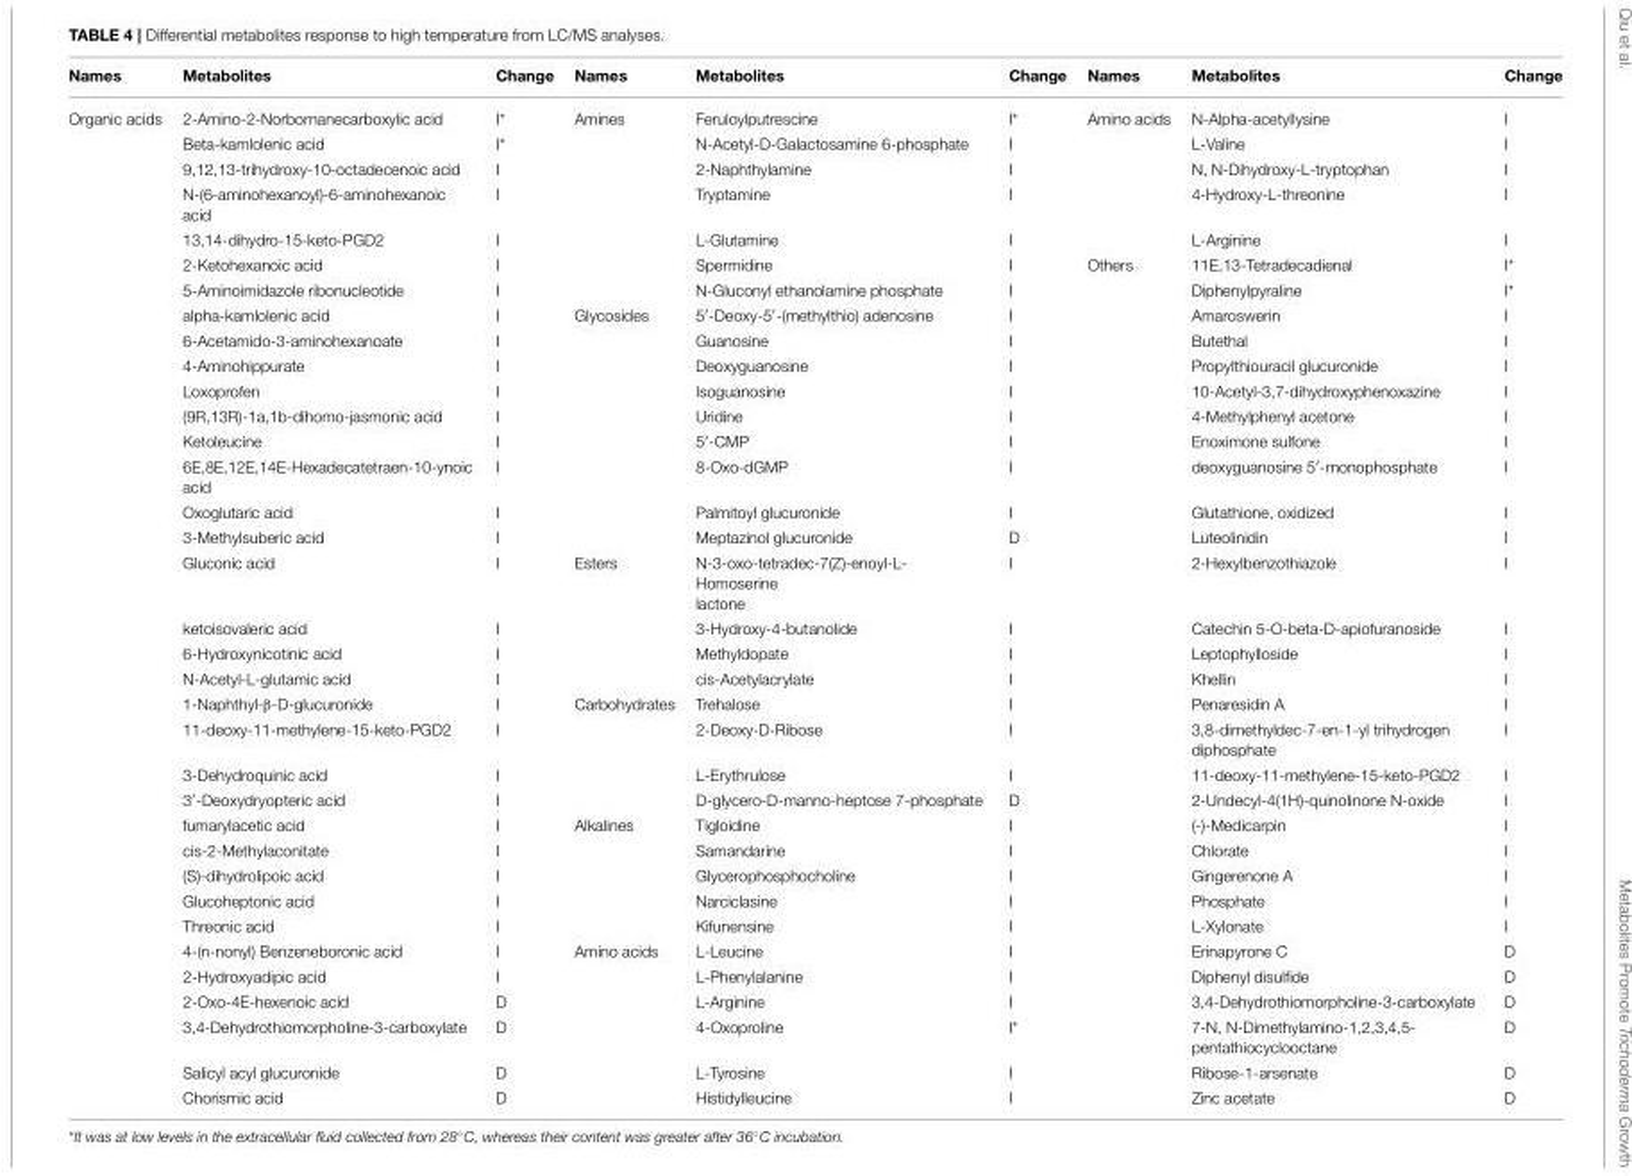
<table><thead><tr><td>Names</td><td>Metabolites</td><td>Change</td><td>Names</td><td>Metabolites</td><td>Change</td><td>Names</td><td>Metabolites</td><td>Change</td></tr></thead><tbody><tr><td rowspan="35">Organic acids</td><td>2-Amino-2-Norbornanecarboxylic acid</td><td>I*</td><td>Amines</td><td>Feruloylputrescine</td><td>I*</td><td>Amino acids</td><td>N-Alpha-acetyllysine</td><td>I</td></tr><tr><td>Beta-kamlolenic acid</td><td>I*</td><td></td><td>N-Acetyl-D-Galactosamine 6-phosphate</td><td>I</td><td></td><td>L-Valine</td><td>I</td></tr><tr><td>9,12,13-trihydroxy-10-octadecenoic acid</td><td>I</td><td></td><td>2-Naphthylamine</td><td>I</td><td></td><td>N, N-Dihydroxy-L-tryptophan</td><td>I</td></tr><tr><td>N-(6-aminohexanoyl)-6-aminohexanoic acid</td><td>I</td><td></td><td>Tryptamine</td><td>I</td><td></td><td>4-Hydroxy-L-threonine</td><td>I</td></tr><tr><td>13,14-dihydro-15-keto-PGD2</td><td>I</td><td></td><td>L-Glutamine</td><td>I</td><td></td><td>L-Arginine</td><td>I</td></tr><tr><td>2-Ketohexanoic acid</td><td>I</td><td></td><td>Spermidine</td><td>I</td><td>Others</td><td>11E,13-Tetradecadienal</td><td>I*</td></tr><tr><td>5-Aminoimidazole ribonucleotide</td><td>I</td><td></td><td>N-Gluconyl ethanolamine phosphate</td><td>I</td><td></td><td>Diphenylpyraline</td><td>I*</td></tr><tr><td>alpha-kamlolenic acid</td><td>I</td><td>Glycosides</td><td>5′-Deoxy-5′-(methylthio) adenosine</td><td>I</td><td></td><td>Amaroswerin</td><td>I</td></tr><tr><td>6-Acetamido-3-aminohexanoate</td><td>I</td><td></td><td>Guanosine</td><td>I</td><td></td><td>Butethal</td><td>I</td></tr><tr><td>4-Aminohippurate</td><td>I</td><td></td><td>Deoxyguanosine</td><td>I</td><td></td><td>Propylthiouracil glucuronide</td><td>I</td></tr><tr><td>Loxoprofen</td><td>I</td><td></td><td>Isoguanosine</td><td>I</td><td></td><td>10-Acetyl-3,7-dihydroxyphenoxazine</td><td>I</td></tr><tr><td>(9R,13R)-1a,1b-dihomo-jasmonic acid</td><td>I</td><td></td><td>Uridine</td><td>I</td><td></td><td>4-Methylphenyl acetone</td><td>I</td></tr><tr><td>Ketoleucine</td><td>I</td><td></td><td>5′-CMP</td><td>I</td><td></td><td>Enoximone sulfone</td><td>I</td></tr><tr><td>6E,8E,12E,14E-Hexadecatetraen-10-ynoic acid</td><td>I</td><td></td><td>8-Oxo-dGMP</td><td>I</td><td></td><td>deoxyguanosine 5′-monophosphate</td><td>I</td></tr><tr><td>Oxoglutaric acid</td><td>I</td><td></td><td>Palmitoyl glucuronide</td><td>I</td><td></td><td>Glutathione, oxidized</td><td>I</td></tr><tr><td>3-Methylsuberic acid</td><td>I</td><td></td><td>Meptazinol glucuronide</td><td>D</td><td></td><td>Luteolinidin</td><td>I</td></tr><tr><td>Gluconic acid</td><td>I</td><td>Esters</td><td>N-3-oxo-tetradec-7(Z)-enoyl-L- Homoserine lactone</td><td>I</td><td></td><td>2-Hexylbenzothiazole</td><td>I</td></tr><tr><td>ketoisovaleric acid</td><td>I</td><td></td><td>3-Hydroxy-4-butanolide</td><td>I</td><td></td><td>Catechin 5-O-beta-D-apiofuranoside</td><td>I</td></tr><tr><td>6-Hydroxynicotinic acid</td><td>I</td><td></td><td>Methyldopate</td><td>I</td><td></td><td>Leptophylloside</td><td>I</td></tr><tr><td>N-Acetyl-L-glutamic acid</td><td>I</td><td></td><td>cis-Acetylacrylate</td><td>I</td><td></td><td>Khellin</td><td>I</td></tr><tr><td>1-Naphthyl-β-D-glucuronide</td><td>I</td><td>Carbohydrates</td><td>Trehalose</td><td>I</td><td></td><td>Penaresidin A</td><td>I</td></tr><tr><td>11-deoxy-11-methylene-15-keto-PGD2</td><td>I</td><td></td><td>2-Deoxy-D-Ribose</td><td>I</td><td></td><td>3,8-dimethyldec-7-en-1-yl trihydrogen diphosphate</td><td>I</td></tr><tr><td>3-Dehydroquinic acid</td><td>I</td><td></td><td>L-Erythrulose</td><td>I</td><td></td><td>11-deoxy-11-methylene-15-keto-PGD2</td><td>I</td></tr><tr><td>3′-Deoxydryopteric acid</td><td>I</td><td></td><td>D-glycero-D-manno-heptose 7-phosphate</td><td>D</td><td></td><td>2-Undecyl-4(1H)-quinolinone N-oxide</td><td>I</td></tr><tr><td>fumarylacetic acid</td><td>I</td><td>Alkalines</td><td>Tigloidine</td><td>I</td><td></td><td>(-)-Medicarpin</td><td>I</td></tr><tr><td>cis-2-Methylaconitate</td><td>I</td><td></td><td>Samandarine</td><td>I</td><td></td><td>Chlorate</td><td>I</td></tr><tr><td>(S)-dihydrolipoic acid</td><td>I</td><td></td><td>Glycerophosphocholine</td><td>I</td><td></td><td>Gingerenone A</td><td>I</td></tr><tr><td>Glucoheptonic acid</td><td>I</td><td></td><td>Narciclasine</td><td>I</td><td></td><td>Phosphate</td><td>I</td></tr><tr><td>Threonic acid</td><td>I</td><td></td><td>Kifunensine</td><td>I</td><td></td><td>L-Xylonate</td><td>I</td></tr><tr><td>4-(n-nonyl) Benzeneboronic acid</td><td>I</td><td>Amino acids</td><td>L-Leucine</td><td>I</td><td></td><td>Erinapyrone C</td><td>D</td></tr><tr><td>2-Hydroxyadipic acid</td><td>I</td><td></td><td>L-Phenylalanine</td><td>I</td><td></td><td>Diphenyl disulfide</td><td>D</td></tr><tr><td>2-Oxo-4E-hexenoic acid</td><td>D</td><td></td><td>L-Arginine</td><td>I</td><td></td><td>3,4-Dehydrothiomorpholine-3-carboxylate</td><td>D</td></tr><tr><td>3,4-Dehydrothiomorpholine-3-carboxylate</td><td>D</td><td></td><td>4-Oxoproline</td><td>I*</td><td></td><td>7-N, N-Dimethylamino-1,2,3,4,5- pentathiocyclooctane</td><td>D</td></tr><tr><td>Salicyl acyl glucuronide</td><td>D</td><td></td><td>L-Tyrosine</td><td>I</td><td></td><td>Ribose-1-arsenate</td><td>D</td></tr><tr><td>Chorismic acid</td><td>D</td><td></td><td>Histidylleucine</td><td>I</td><td></td><td>Zinc acetate</td><td>D</td></tr></tbody></table>